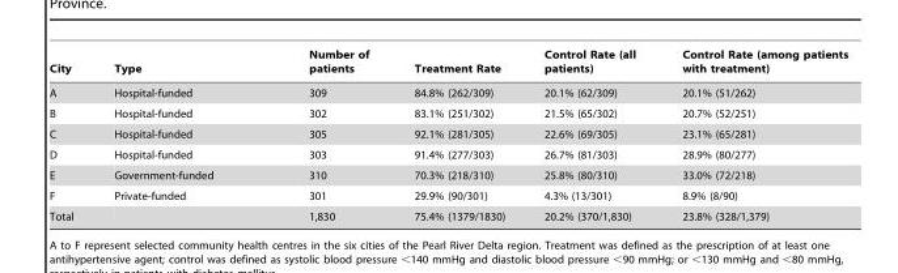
<table><thead><tr><td>City</td><td>Type</td><td>Number of patients</td><td>Treatment Rate</td><td>Control Rate (all patients)</td><td>Control Rate (among patients with treatment)</td></tr></thead><tbody><tr><td>A</td><td>Hospital-funded</td><td>309</td><td>84.8% (262/309)</td><td>20.1% (62/309)</td><td>20.1% (51/262)</td></tr><tr><td>B</td><td>Hospital-funded</td><td>302</td><td>83.1% (251/302)</td><td>21.5% (65/302)</td><td>20.7% (52/251)</td></tr><tr><td>C</td><td>Hospital-funded</td><td>305</td><td>92.1% (281/305)</td><td>22.6% (69/305)</td><td>23.1% (65/281)</td></tr><tr><td>D</td><td>Hospital-funded</td><td>303</td><td>91.4% (277/303)</td><td>26.7% (81/303)</td><td>28.9% (80/277)</td></tr><tr><td>E</td><td>Government-funded</td><td>310</td><td>70.3% (218/310)</td><td>25.8% (80/310)</td><td>33.0% (72/218)</td></tr><tr><td>F</td><td>Private-funded</td><td>301</td><td>29.9% (90/301)</td><td>4.3% (13/301)</td><td>8.9% (8/90)</td></tr><tr><td>Total</td><td></td><td>1,830</td><td>75.4% (1379/1830)</td><td>20.2% (370/1,830)</td><td>23.8% (328/1,379)</td></tr></tbody></table>